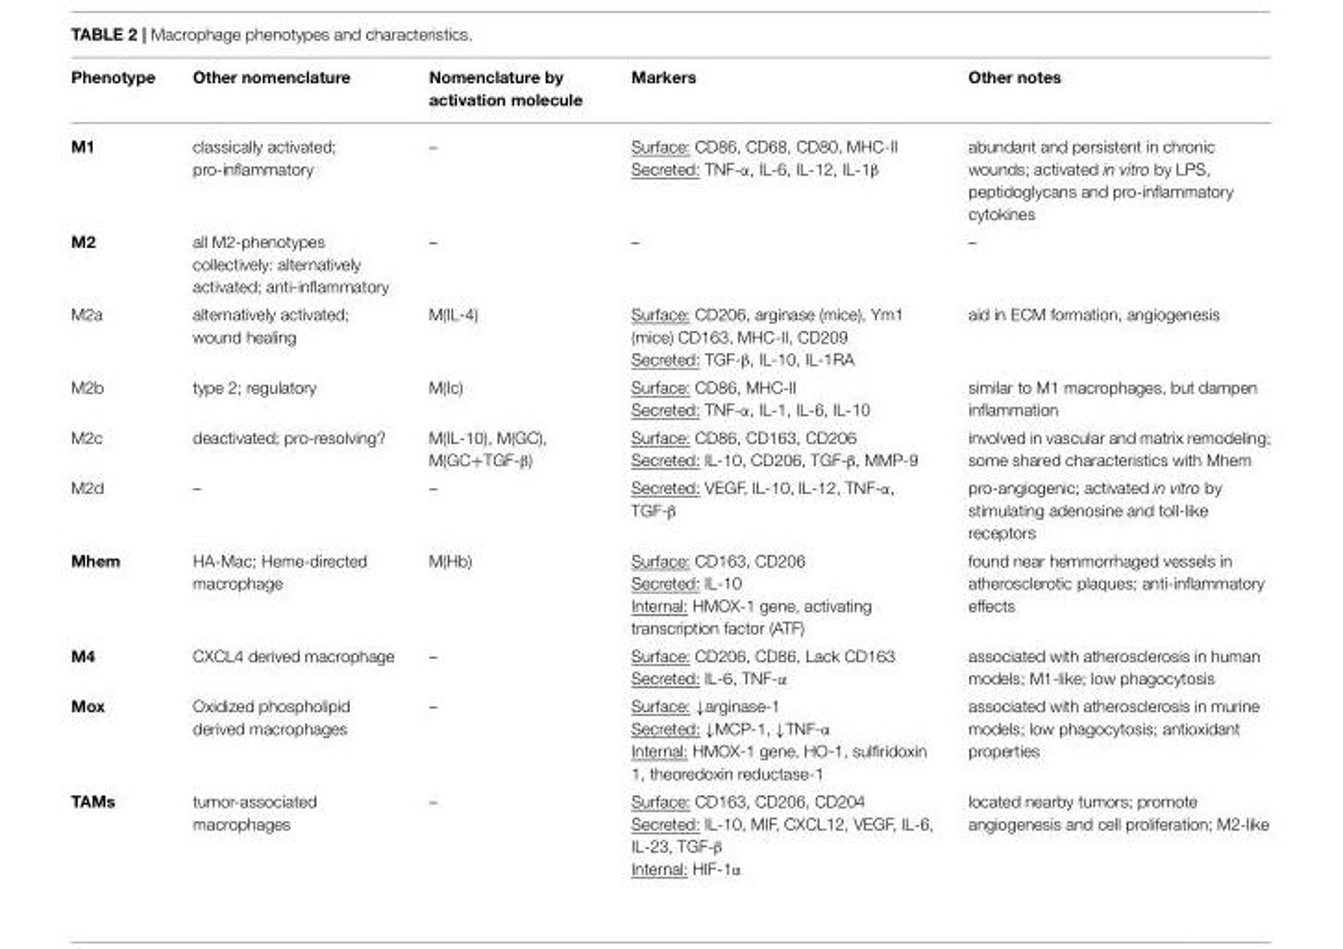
<table><thead><tr><td>Phenotype</td><td>Other nomenclature</td><td>Nomenclature by activation molecule</td><td>Markers</td><td>Other notes</td></tr></thead><tbody><tr><td>M1</td><td>classically activated; pro-inflammatory</td><td>–</td><td>Surface: CD86, CD68, CD80, MHC-II Secreted: TNF-α, IL-6, IL-12, IL-1β</td><td>abundant and persistent in chronic wounds; activated in vitro by LPS, peptidoglycans and pro-inflammatory cytokines</td></tr><tr><td>M2</td><td>all M2-phenotypes collectively: alternatively activated; anti-inflammatory</td><td>–</td><td>–</td><td>–</td></tr><tr><td>M2a</td><td>alternatively activated; wound healing</td><td>M(IL-4)</td><td>Surface: CD206, arginase (mice), Ym1 (mice) CD163, MHC-II, CD209 Secreted: TGF-β, IL-10, IL-1RA</td><td>aid in ECM formation, angiogenesis</td></tr><tr><td>M2b</td><td>type 2; regulatory</td><td>M(Ic)</td><td>Surface: CD86, MHC-II Secreted: TNF-α, IL-1, IL-6, IL-10</td><td>similar to M1 macrophages, but dampen inflammation</td></tr><tr><td>M2c</td><td>deactivated; pro-resolving?</td><td>M(IL-10), M(GC), M(GC+TGF-β)</td><td>Surface: CD86, CD163, CD206 Secreted: IL-10, CD206, TGF-β, MMP-9</td><td>involved in vascular and matrix remodeling; some shared characteristics with Mhem</td></tr><tr><td>M2d</td><td>–</td><td>–</td><td>Secreted: VEGF, IL-10, IL-12, TNF-α, TGF-β</td><td>pro-angiogenic; activated in vitro by stimulating adenosine and toll-like receptors</td></tr><tr><td>Mhem</td><td>HA-Mac; Heme-directed macrophage</td><td>M(Hb)</td><td>Surface: CD163, CD206 Secreted: IL-10 Internal: HMOX-1 gene, activating transcription factor (ATF)</td><td>found near hemmorrhaged vessels in atherosclerotic plaques; anti-inflammatory effects</td></tr><tr><td>M4</td><td>CXCL4 derived macrophage</td><td>–</td><td>Surface: CD206, CD86, Lack CD163 Secreted: IL-6, TNF-α</td><td>associated with atherosclerosis in human models; M1-like; low phagocytosis</td></tr><tr><td>Mox</td><td>Oxidized phospholipid derived macrophages</td><td>–</td><td>Surface: ↓arginase-1 Secreted: ↓MCP-1, ↓TNF-α Internal: HMOX-1 gene, HO-1, sulfiridoxin 1, theoredoxin reductase-1</td><td>associated with atherosclerosis in murine models; low phagocytosis; antioxidant properties</td></tr><tr><td>TAMs</td><td>tumor-associated macrophages</td><td>–</td><td>Surface: CD163, CD206, CD204 Secreted: IL-10, MIF, CXCL12, VEGF, IL-6, IL-23, TGF-β Internal: HIF-1α</td><td>located nearby tumors; promote angiogenesis and cell proliferation; M2-like</td></tr></tbody></table>